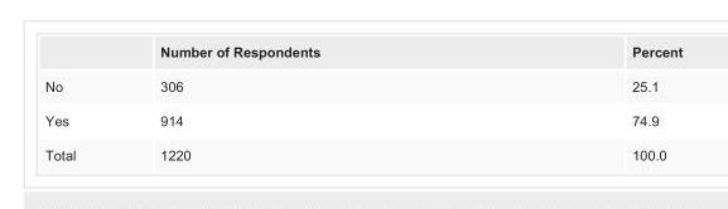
<table><thead><tr><td></td><td>Number of Respondents</td><td>Percent</td></tr></thead><tbody><tr><td>No</td><td>306</td><td>25.1</td></tr><tr><td>Yes</td><td>914</td><td>74.9</td></tr><tr><td>Total</td><td>1220</td><td>100.0</td></tr></tbody></table>